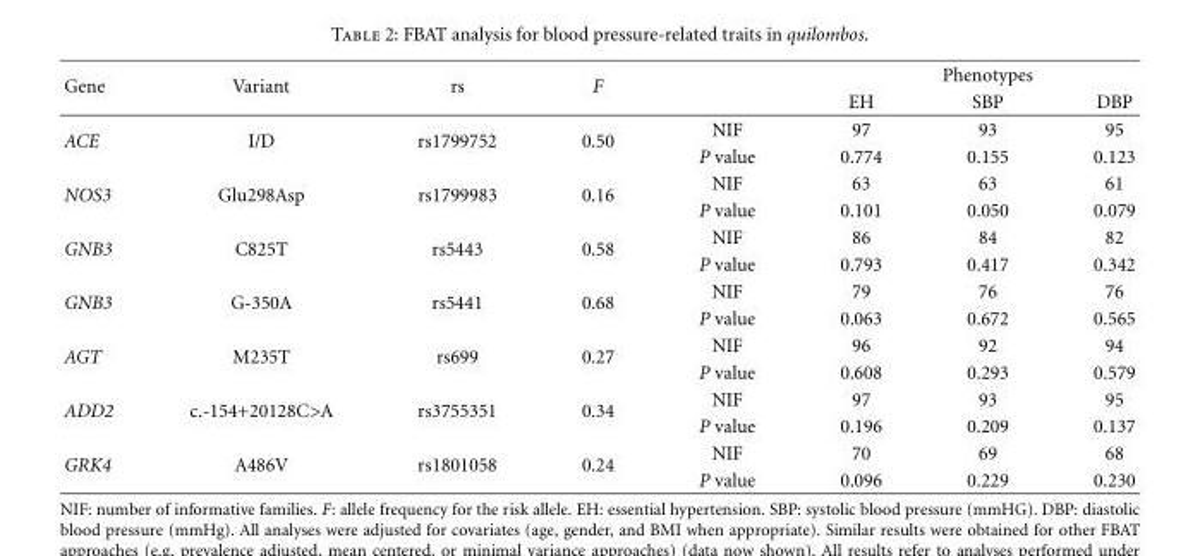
<table><thead><tr><td rowspan="2">Gene</td><td rowspan="2">Variant</td><td rowspan="2">rs</td><td rowspan="2">F</td><td rowspan="2"></td><td colspan="3">Phenotypes</td></tr><tr><td>EH</td><td>SBP</td><td>DBP</td></tr></thead><tbody><tr><td rowspan="2">ACE</td><td rowspan="2">I/D</td><td rowspan="2">rs1799752</td><td rowspan="2">0.50</td><td>NIF</td><td>97</td><td>93</td><td>95</td></tr><tr><td>P value</td><td>0.774</td><td>0.155</td><td>0.123</td></tr><tr><td rowspan="2">NOS3</td><td rowspan="2">Glu298Asp</td><td rowspan="2">rs1799983</td><td rowspan="2">0.16</td><td>NIF</td><td>63</td><td>63</td><td>61</td></tr><tr><td>P value</td><td>0.101</td><td>0.050</td><td>0.079</td></tr><tr><td rowspan="2">GNB3</td><td rowspan="2">C825T</td><td rowspan="2">rs5443</td><td rowspan="2">0.58</td><td>NIF</td><td>86</td><td>84</td><td>82</td></tr><tr><td>P value</td><td>0.793</td><td>0.417</td><td>0.342</td></tr><tr><td rowspan="2">GNB3</td><td rowspan="2">G-350A</td><td rowspan="2">rs5441</td><td rowspan="2">0.68</td><td>NIF</td><td>79</td><td>76</td><td>76</td></tr><tr><td>P value</td><td>0.063</td><td>0.672</td><td>0.565</td></tr><tr><td rowspan="2">AGT</td><td rowspan="2">M235T</td><td rowspan="2">rs699</td><td rowspan="2">0.27</td><td>NIF</td><td>96</td><td>92</td><td>94</td></tr><tr><td>P value</td><td>0.608</td><td>0.293</td><td>0.579</td></tr><tr><td rowspan="2">ADD2</td><td rowspan="2">c.-154+20128C&gt;A</td><td rowspan="2">rs3755351</td><td rowspan="2">0.34</td><td>NIF</td><td>97</td><td>93</td><td>95</td></tr><tr><td>P value</td><td>0.196</td><td>0.209</td><td>0.137</td></tr><tr><td rowspan="2">GRK4</td><td rowspan="2">A486V</td><td rowspan="2">rs1801058</td><td rowspan="2">0.24</td><td>NIF</td><td>70</td><td>69</td><td>68</td></tr><tr><td>P value</td><td>0.096</td><td>0.229</td><td>0.230</td></tr></tbody></table>